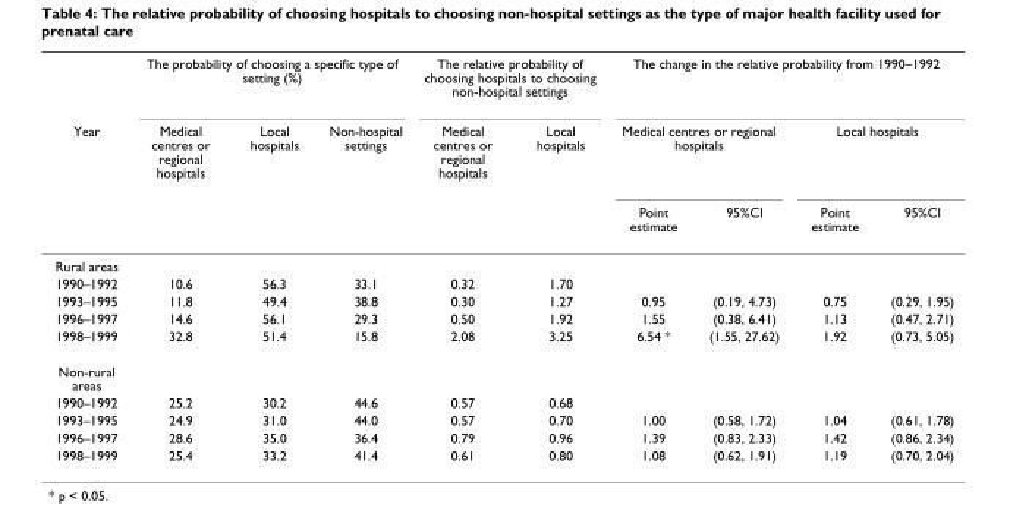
<table><thead><tr><td rowspan="3">Year</td><td colspan="3">The probability of choosing a specific type of setting (%)</td><td colspan="2">The relative probability of choosing hospitals to choosing non-hospital settings</td><td colspan="4">The change in the relative probability from 1990–1992</td></tr><tr><td rowspan="2">Medical centres or regional hospitals</td><td rowspan="2">Local hospitals</td><td rowspan="2">Non-hospital settings</td><td rowspan="2">Medical centres or regional hospitals</td><td rowspan="2">Local hospitals</td><td colspan="2">Medical centres or regional hospitals</td><td colspan="2">Local hospitals</td></tr><tr><td>Point estimate</td><td>95%CI</td><td>Point estimate</td><td>95%CI</td></tr></thead><tbody><tr><td colspan="10">Rural areas</td></tr><tr><td>1990–1992</td><td>10.6</td><td>56.3</td><td>33.1</td><td>0.32</td><td>1.70</td><td></td><td></td><td></td><td></td></tr><tr><td>1993–1995</td><td>11.8</td><td>49.4</td><td>38.8</td><td>0.30</td><td>1.27</td><td>0.95</td><td>(0.19, 4.73)</td><td>0.75</td><td>(0.29, 1.95)</td></tr><tr><td>1996–1997</td><td>14.6</td><td>56.1</td><td>29.3</td><td>0.50</td><td>1.92</td><td>1.55</td><td>(0.38, 6.41)</td><td>1.13</td><td>(0.47, 2.71)</td></tr><tr><td>1998–1999</td><td>32.8</td><td>51.4</td><td>15.8</td><td>2.08</td><td>3.25</td><td>6.54 *</td><td>(1.55, 27.62)</td><td>1.92</td><td>(0.73, 5.05)</td></tr><tr><td colspan="10">Non-rural areas</td></tr><tr><td>1990–1992</td><td>25.2</td><td>30.2</td><td>44.6</td><td>0.57</td><td>0.68</td><td></td><td></td><td></td><td></td></tr><tr><td>1993–1995</td><td>24.9</td><td>31.0</td><td>44.0</td><td>0.57</td><td>0.70</td><td>1.00</td><td>(0.58, 1.72)</td><td>1.04</td><td>(0.61, 1.78)</td></tr><tr><td>1996–1997</td><td>28.6</td><td>35.0</td><td>36.4</td><td>0.79</td><td>0.96</td><td>1.39</td><td>(0.83, 2.33)</td><td>1.42</td><td>(0.86, 2.34)</td></tr><tr><td>1998–1999</td><td>25.4</td><td>33.2</td><td>41.4</td><td>0.61</td><td>0.80</td><td>1.08</td><td>(0.62, 1.91)</td><td>1.19</td><td>(0.70, 2.04)</td></tr></tbody></table>